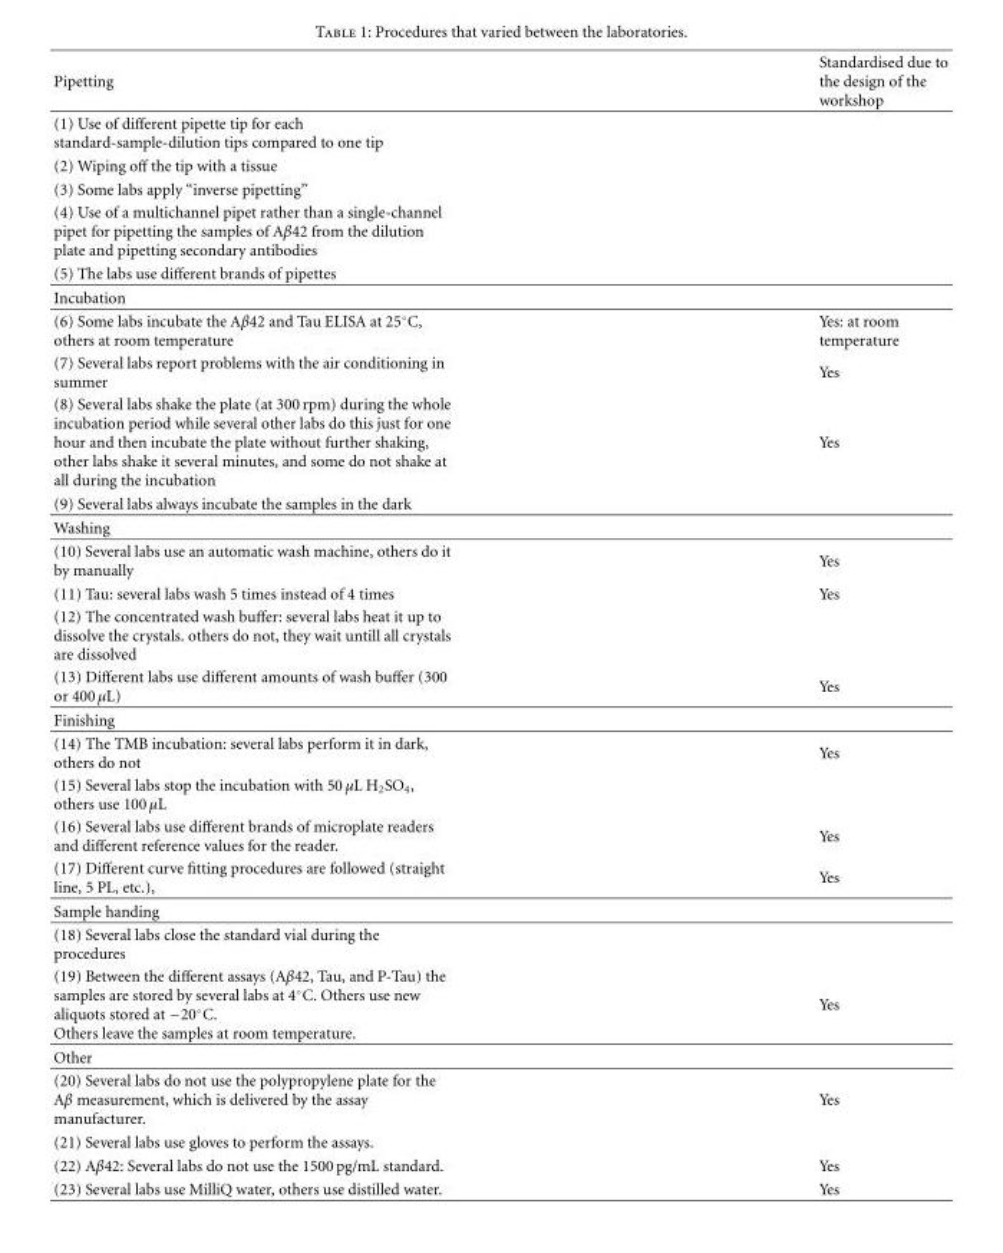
<table><thead><tr><td>Pipetting</td><td>Standardised due to the design of the workshop</td></tr></thead><tbody><tr><td colspan="2">(1) Use of different pipette tip for each standard-sample-dilution tips compared to one tip</td></tr><tr><td colspan="2">(2) Wiping off the tip with a tissue</td></tr><tr><td colspan="2">(3) Some labs apply “inverse pipetting”</td></tr><tr><td colspan="2">(4) Use of a multichannel pipet rather than a single-channel pipet for pipetting the samples of Aβ42 from the dilution plate and pipetting secondary antibodies</td></tr><tr><td colspan="2">(5) The labs use different brands of pipettes</td></tr><tr><td colspan="2">Incubation</td></tr><tr><td>(6) Some labs incubate the Aβ42 and Tau ELISA at 25◦C, others at room temperature</td><td>Yes: at room temperature</td></tr><tr><td>(7) Several labs report problems with the air conditioning in summer</td><td>Yes</td></tr><tr><td>(8) Several labs shake the plate (at 300 rpm) during the whole incubation period while several other labs do this just for one hour and then incubate the plate without further shaking, other labs shake it several minutes, and some do not shake at all during the incubation</td><td>Yes</td></tr><tr><td colspan="2">(9) Several labs always incubate the samples in the dark</td></tr><tr><td colspan="2">Washing</td></tr><tr><td>(10) Several labs use an automatic wash machine, others do it by manually</td><td>Yes</td></tr><tr><td>(11) Tau: several labs wash 5 times instead of 4 times</td><td>Yes</td></tr><tr><td colspan="2">(12) The concentrated wash buffer: several labs heat it up to dissolve the crystals. others do not, they wait untill all crystals are dissolved</td></tr><tr><td>(13) Different labs use different amounts of wash buffer (300 or 400 μL)</td><td>Yes</td></tr><tr><td colspan="2">Finishing</td></tr><tr><td>(14) The TMB incubation: several labs perform it in dark, others do not</td><td>Yes</td></tr><tr><td colspan="2">(15) Several labs stop the incubation with 50 μL H<sub>2</sub>SO<sub>4</sub>, others use 100 μL</td></tr><tr><td>(16) Several labs use different brands of microplate readers and different reference values for the reader.</td><td>Yes</td></tr><tr><td>(17) Different curve fitting procedures are followed (straight line, 5 PL, etc.),</td><td>Yes</td></tr><tr><td colspan="2">Sample handing</td></tr><tr><td colspan="2">(18) Several labs close the standard vial during the procedures</td></tr><tr><td>(19) Between the different assays (Aβ42, Tau, and P-Tau) the samples are stored by several labs at 4◦C. Others use new aliquots stored at −20◦C. Others leave the samples at room temperature.</td><td>Yes</td></tr><tr><td colspan="2">Other</td></tr><tr><td>(20) Several labs do not use the polypropylene plate for the Aβ measurement, which is delivered by the assay manufacturer.</td><td>Yes</td></tr><tr><td colspan="2">(21) Several labs use gloves to perform the assays.</td></tr><tr><td>(22) Aβ42: Several labs do not use the 1500 pg/mL standard.</td><td>Yes</td></tr><tr><td>(23) Several labs use MilliQ water, others use distilled water.</td><td>Yes</td></tr></tbody></table>